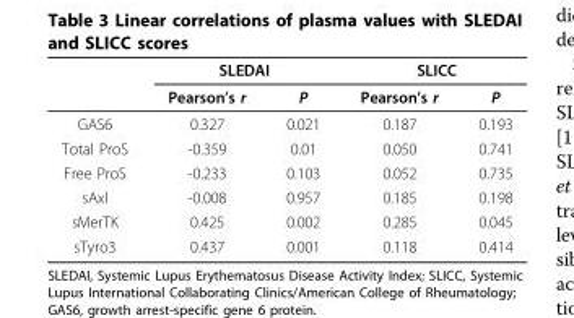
<table><thead><tr><td rowspan="2"></td><td colspan="2">SLEDAI</td><td colspan="2">SLICC</td></tr><tr><td>Pearson’s r</td><td>P</td><td>Pearson’s r</td><td>P</td></tr></thead><tbody><tr><td>GAS6</td><td>0.327</td><td>0.021</td><td>0.187</td><td>0.193</td></tr><tr><td>Total ProS</td><td>-0.359</td><td>0.01</td><td>0.050</td><td>0.741</td></tr><tr><td>Free ProS</td><td>-0.233</td><td>0.103</td><td>0.052</td><td>0.735</td></tr><tr><td>sAxl</td><td>-0.008</td><td>0.957</td><td>0.185</td><td>0.198</td></tr><tr><td>sMerTK</td><td>0.425</td><td>0.002</td><td>0.285</td><td>0.045</td></tr><tr><td>sTyro3</td><td>0.437</td><td>0.001</td><td>0.118</td><td>0.414</td></tr></tbody></table>